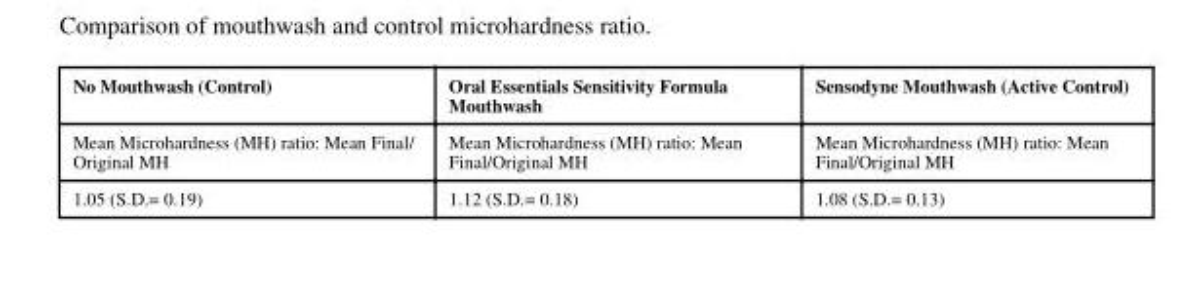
<table><thead><tr><td>No Mouthwash (Control)</td><td>Oral Essentials Sensitivity Formula Mouthwash</td><td>Sensodyne Mouthwash (Active Control)</td></tr></thead><tbody><tr><td>Mean Microhardness (MH) ratio: Mean Final/ Original MH</td><td>Mean Microhardness (MH) ratio: Mean Final/Original MH</td><td>Mean Microhardness (MH) ratio: Mean Final/Original MH</td></tr><tr><td>1.05 (S.D.= 0.19)</td><td>1.12 (S.D.= 0.18)</td><td>1.08 (S.D.= 0.13)</td></tr></tbody></table>